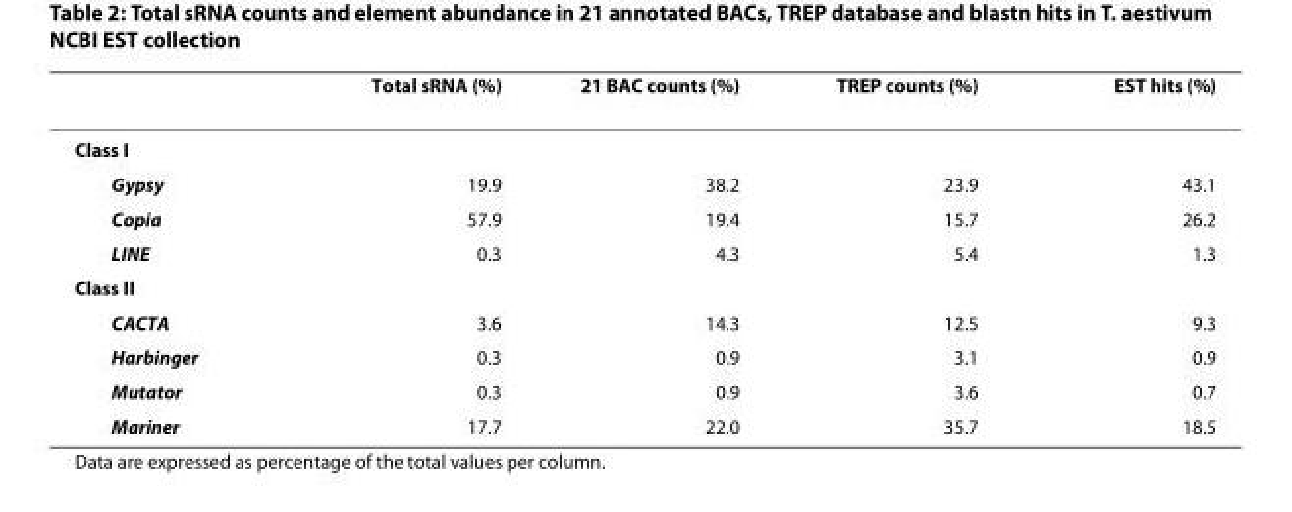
<table><thead><tr><td></td><td>Total sRNA (%)</td><td>21 BAC counts (%)</td><td>TREP counts (%)</td><td>EST hits (%)</td></tr></thead><tbody><tr><td colspan="5">Class I</td></tr><tr><td>Gypsy</td><td>19.9</td><td>38.2</td><td>23.9</td><td>43.1</td></tr><tr><td>Copia</td><td>57.9</td><td>19.4</td><td>15.7</td><td>26.2</td></tr><tr><td>LINE</td><td>0.3</td><td>4.3</td><td>5.4</td><td>1.3</td></tr><tr><td colspan="5">Class II</td></tr><tr><td>CACTA</td><td>3.6</td><td>14.3</td><td>12.5</td><td>9.3</td></tr><tr><td>Harbinger</td><td>0.3</td><td>0.9</td><td>3.1</td><td>0.9</td></tr><tr><td>Mutator</td><td>0.3</td><td>0.9</td><td>3.6</td><td>0.7</td></tr><tr><td>Mariner</td><td>17.7</td><td>22.0</td><td>35.7</td><td>18.5</td></tr></tbody></table>